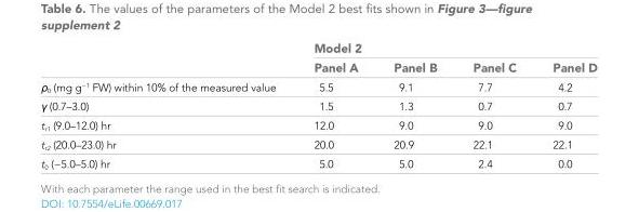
<table><thead><tr><td rowspan="2"></td><td colspan="4">Model 2</td></tr><tr><td>Panel A</td><td>Panel B</td><td>Panel C</td><td>Panel D</td></tr></thead><tbody><tr><td>ρ<sub>0</sub> (mg g<sup>−1</sup> FW) within 10% of the measured value</td><td>5.5</td><td>9.1</td><td>7.7</td><td>4.2</td></tr><tr><td>γ (0.7–3.0)</td><td>1.5</td><td>1.3</td><td>0.7</td><td>0.7</td></tr><tr><td>t<sub>r1</sub> (9.0–12.0) hr</td><td>12.0</td><td>9.0</td><td>9.0</td><td>9.0</td></tr><tr><td>t<sub>r2</sub> (20.0–23.0) hr</td><td>20.0</td><td>20.9</td><td>22.1</td><td>22.1</td></tr><tr><td>t<sub>0</sub> (−5.0–5.0) hr</td><td>5.0</td><td>5.0</td><td>2.4</td><td>0.0</td></tr></tbody></table>